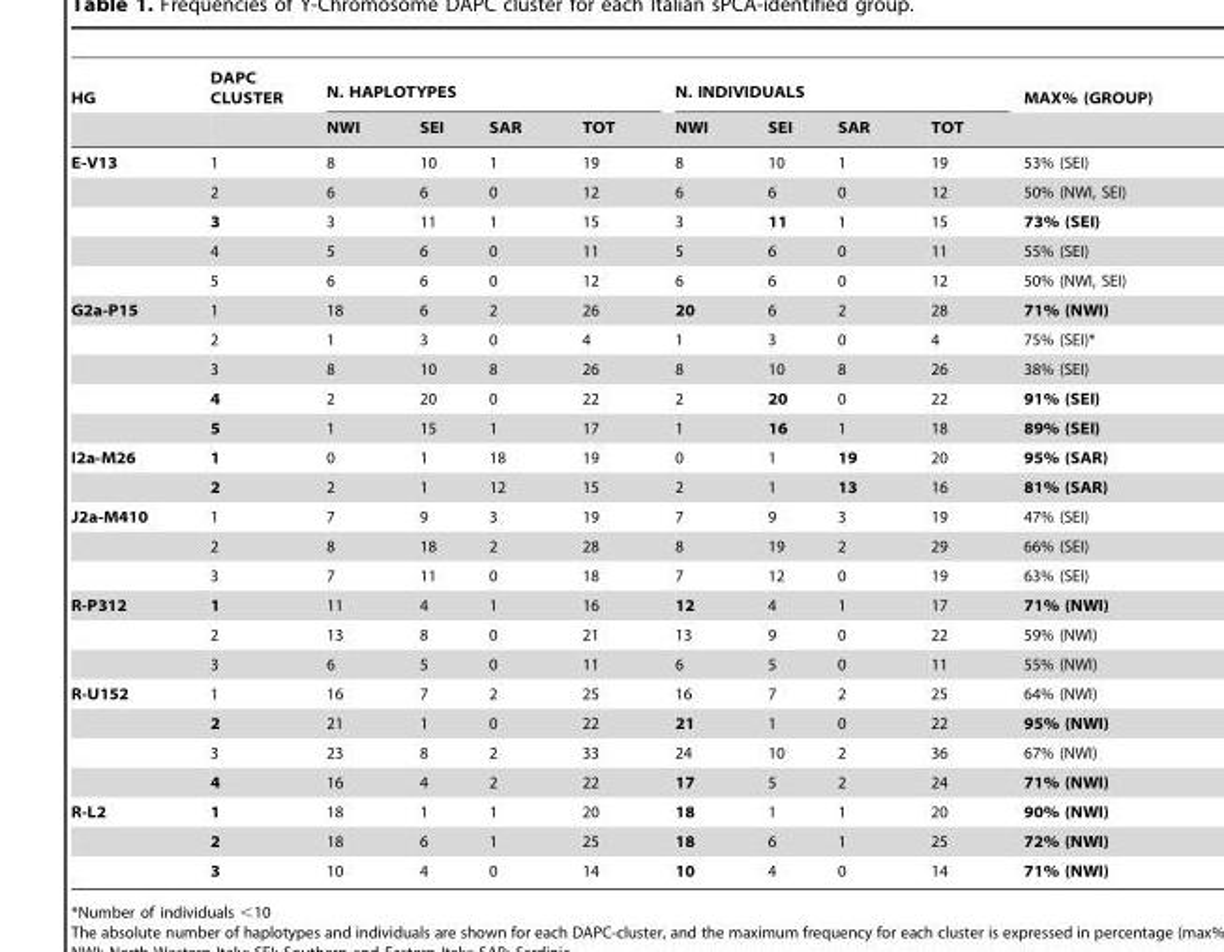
<table><thead><tr><td rowspan="2">HG</td><td rowspan="2">DAPC CLUSTER</td><td colspan="4">N. HAPLOTYPES</td><td colspan="4">N. INDIVIDUALS</td><td rowspan="2">MAX% (GROUP)</td></tr><tr><td>NWI</td><td>SEI</td><td>SAR</td><td>TOT</td><td>NWI</td><td>SEI</td><td>SAR</td><td>TOT</td></tr></thead><tbody><tr><td rowspan="5">E-V13</td><td>1</td><td>8</td><td>10</td><td>1</td><td>19</td><td>8</td><td>10</td><td>1</td><td>19</td><td>53% (SEI)</td></tr><tr><td>2</td><td>6</td><td>6</td><td>0</td><td>12</td><td>6</td><td>6</td><td>0</td><td>12</td><td>50% (NWI, SEI)</td></tr><tr><td>3</td><td>3</td><td>11</td><td>1</td><td>15</td><td>3</td><td>11</td><td>1</td><td>15</td><td>73% (SEI)</td></tr><tr><td>4</td><td>5</td><td>6</td><td>0</td><td>11</td><td>5</td><td>6</td><td>0</td><td>11</td><td>55% (SEI)</td></tr><tr><td>5</td><td>6</td><td>6</td><td>0</td><td>12</td><td>6</td><td>6</td><td>0</td><td>12</td><td>50% (NWI, SEI)</td></tr><tr><td rowspan="5">G2a-P15</td><td>1</td><td>18</td><td>6</td><td>2</td><td>26</td><td>20</td><td>6</td><td>2</td><td>28</td><td>71% (NWI)</td></tr><tr><td>2</td><td>1</td><td>3</td><td>0</td><td>4</td><td>1</td><td>3</td><td>0</td><td>4</td><td>75% (SEI)*</td></tr><tr><td>3</td><td>8</td><td>10</td><td>8</td><td>26</td><td>8</td><td>10</td><td>8</td><td>26</td><td>38% (SEI)</td></tr><tr><td>4</td><td>2</td><td>20</td><td>0</td><td>22</td><td>2</td><td>20</td><td>0</td><td>22</td><td>91% (SEI)</td></tr><tr><td>5</td><td>1</td><td>15</td><td>1</td><td>17</td><td>1</td><td>16</td><td>1</td><td>18</td><td>89% (SEI)</td></tr><tr><td rowspan="2">I2a-M26</td><td>1</td><td>0</td><td>1</td><td>18</td><td>19</td><td>0</td><td>1</td><td>19</td><td>20</td><td>95% (SAR)</td></tr><tr><td>2</td><td>2</td><td>1</td><td>12</td><td>15</td><td>2</td><td>1</td><td>13</td><td>16</td><td>81% (SAR)</td></tr><tr><td rowspan="3">J2a-M410</td><td>1</td><td>7</td><td>9</td><td>3</td><td>19</td><td>7</td><td>9</td><td>3</td><td>19</td><td>47% (SEI)</td></tr><tr><td>2</td><td>8</td><td>18</td><td>2</td><td>28</td><td>8</td><td>19</td><td>2</td><td>29</td><td>66% (SEI)</td></tr><tr><td>3</td><td>7</td><td>11</td><td>0</td><td>18</td><td>7</td><td>12</td><td>0</td><td>19</td><td>63% (SEI)</td></tr><tr><td rowspan="3">R-P312</td><td>1</td><td>11</td><td>4</td><td>1</td><td>16</td><td>12</td><td>4</td><td>1</td><td>17</td><td>71% (NWI)</td></tr><tr><td>2</td><td>13</td><td>8</td><td>0</td><td>21</td><td>13</td><td>9</td><td>0</td><td>22</td><td>59% (NWI)</td></tr><tr><td>3</td><td>6</td><td>5</td><td>0</td><td>11</td><td>6</td><td>5</td><td>0</td><td>11</td><td>55% (NWI)</td></tr><tr><td rowspan="4">R-U152</td><td>1</td><td>16</td><td>7</td><td>2</td><td>25</td><td>16</td><td>7</td><td>2</td><td>25</td><td>64% (NWI)</td></tr><tr><td>2</td><td>21</td><td>1</td><td>0</td><td>22</td><td>21</td><td>1</td><td>0</td><td>22</td><td>95% (NWI)</td></tr><tr><td>3</td><td>23</td><td>8</td><td>2</td><td>33</td><td>24</td><td>10</td><td>2</td><td>36</td><td>67% (NWI)</td></tr><tr><td>4</td><td>16</td><td>4</td><td>2</td><td>22</td><td>17</td><td>5</td><td>2</td><td>24</td><td>71% (NWI)</td></tr><tr><td rowspan="3">R-L2</td><td>1</td><td>18</td><td>1</td><td>1</td><td>20</td><td>18</td><td>1</td><td>1</td><td>20</td><td>90% (NWI)</td></tr><tr><td>2</td><td>18</td><td>6</td><td>1</td><td>25</td><td>18</td><td>6</td><td>1</td><td>25</td><td>72% (NWI)</td></tr><tr><td>3</td><td>10</td><td>4</td><td>0</td><td>14</td><td>10</td><td>4</td><td>0</td><td>14</td><td>71% (NWI)</td></tr></tbody></table>